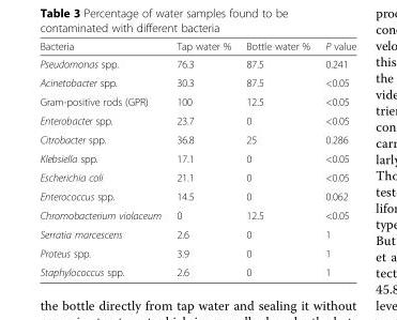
<table><thead><tr><td>Bacteria</td><td>Tap water %</td><td>Bottle water %</td><td>P value</td></tr></thead><tbody><tr><td>Pseudomonas spp.</td><td>76.3</td><td>87.5</td><td>0.241</td></tr><tr><td>Acinetobacter spp.</td><td>30.3</td><td>87.5</td><td>&lt;0.05</td></tr><tr><td>Gram-positive rods (GPR)</td><td>100</td><td>12.5</td><td>&lt;0.05</td></tr><tr><td>Enterobacter spp.</td><td>23.7</td><td>0</td><td>&lt;0.05</td></tr><tr><td>Citrobacter spp.</td><td>36.8</td><td>25</td><td>0.286</td></tr><tr><td>Klebsiella spp.</td><td>17.1</td><td>0</td><td>&lt;0.05</td></tr><tr><td>Escherichia coli</td><td>21.1</td><td>0</td><td>&lt;0.05</td></tr><tr><td>Enterococcus spp.</td><td>14.5</td><td>0</td><td>0.062</td></tr><tr><td>Chromobacterium violaceum</td><td>0</td><td>12.5</td><td>&lt;0.05</td></tr><tr><td>Serratia marcescens</td><td>2.6</td><td>0</td><td>1</td></tr><tr><td>Proteus spp.</td><td>3.9</td><td>0</td><td>1</td></tr><tr><td>Staphylococcus spp.</td><td>2.6</td><td>0</td><td>1</td></tr></tbody></table>